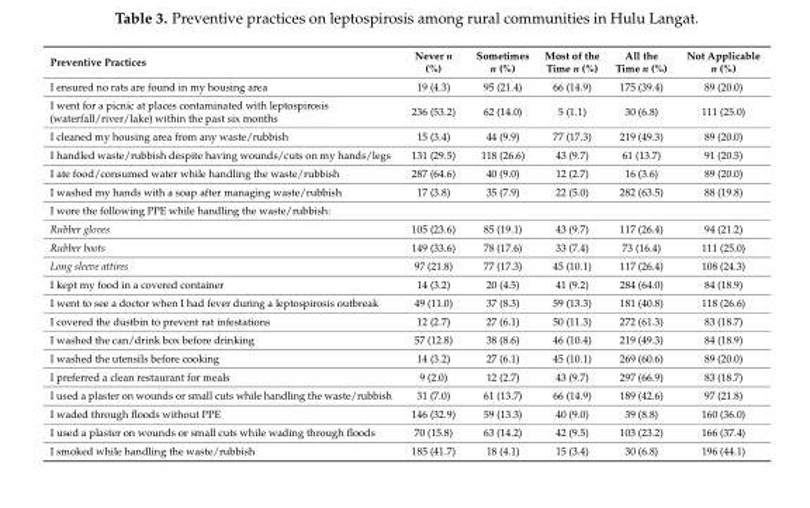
<table><thead><tr><td>Preventive Practices</td><td>Never n (%)</td><td>Sometimes n (%)</td><td>Most of the Time n (%)</td><td>All the Time n (%)</td><td>Not Applicable n (%)</td></tr></thead><tbody><tr><td>I ensured no rats are found in my housing area</td><td>19 (4.3)</td><td>95 (21.4)</td><td>66 (14.9)</td><td>175 (39.4)</td><td>89 (20.0)</td></tr><tr><td>I went for a picnic at places contaminated with leptospirosis (waterfall/river/lake) within the past six months</td><td>236 (53.2)</td><td>62 (14.0)</td><td>5 (1.1)</td><td>30 (6.8)</td><td>111 (25.0)</td></tr><tr><td>I cleaned my housing area from any waste/rubbish</td><td>15 (3.4)</td><td>44 (9.9)</td><td>77 (17.3)</td><td>219 (49.3)</td><td>89 (20.0)</td></tr><tr><td>I handled waste/rubbish despite having wounds/cuts on my hands/legs</td><td>131 (29.5)</td><td>118 (26.6)</td><td>43 (9.7)</td><td>61 (13.7)</td><td>91 (20.5)</td></tr><tr><td>I ate food/consumed water while handling the waste/rubbish</td><td>287 (64.6)</td><td>40 (9.0)</td><td>12 (2.7)</td><td>16 (3.6)</td><td>89 (20.0)</td></tr><tr><td>I washed my hands with a soap after managing waste/rubbish</td><td>17 (3.8)</td><td>35 (7.9)</td><td>22 (5.0)</td><td>282 (63.5)</td><td>88 (19.8)</td></tr><tr><td colspan="6">I wore the following PPE while handling the waste/rubbish:</td></tr><tr><td>Rubber gloves</td><td>105 (23.6)</td><td>85 (19.1)</td><td>43 (9.7)</td><td>117 (26.4)</td><td>94 (21.2)</td></tr><tr><td>Rubber boots</td><td>149 (33.6)</td><td>78 (17.6)</td><td>33 (7.4)</td><td>73 (16.4)</td><td>111 (25.0)</td></tr><tr><td>Long sleeve attires</td><td>97 (21.8)</td><td>77 (17.3)</td><td>45 (10.1)</td><td>117 (26.4)</td><td>108 (24.3)</td></tr><tr><td>I kept my food in a covered container</td><td>14 (3.2)</td><td>20 (4.5)</td><td>41 (9.2)</td><td>284 (64.0)</td><td>84 (18.9)</td></tr><tr><td>I went to see a doctor when I had fever during a leptospirosis outbreak</td><td>49 (11.0)</td><td>37 (8.3)</td><td>59 (13.3)</td><td>181 (40.8)</td><td>118 (26.6)</td></tr><tr><td>I covered the dustbin to prevent rat infestations</td><td>12 (2.7)</td><td>27 (6.1)</td><td>50 (11.3)</td><td>272 (61.3)</td><td>83 (18.7)</td></tr><tr><td>I washed the can/drink box before drinking</td><td>57 (12.8)</td><td>38 (8.6)</td><td>46 (10.4)</td><td>219 (49.3)</td><td>84 (18.9)</td></tr><tr><td>I washed the utensils before cooking</td><td>14 (3.2)</td><td>27 (6.1)</td><td>45 (10.1)</td><td>269 (60.6)</td><td>89 (20.0)</td></tr><tr><td>I preferred a clean restaurant for meals</td><td>9 (2.0)</td><td>12 (2.7)</td><td>43 (9.7)</td><td>297 (66.9)</td><td>83 (18.7)</td></tr><tr><td>I used a plaster on wounds or small cuts while handling the waste/rubbish</td><td>31 (7.0)</td><td>61 (13.7)</td><td>66 (14.9)</td><td>189 (42.6)</td><td>97 (21.8)</td></tr><tr><td>I waded through floods without PPE</td><td>146 (32.9)</td><td>59 (13.3)</td><td>40 (9.0)</td><td>39 (8.8)</td><td>160 (36.0)</td></tr><tr><td>I used a plaster on wounds or small cuts while wading through floods</td><td>70 (15.8)</td><td>63 (14.2)</td><td>42 (9.5)</td><td>103 (23.2)</td><td>166 (37.4)</td></tr><tr><td>I smoked while handling the waste/rubbish</td><td>185 (41.7)</td><td>18 (4.1)</td><td>15 (3.4)</td><td>30 (6.8)</td><td>196 (44.1)</td></tr></tbody></table>